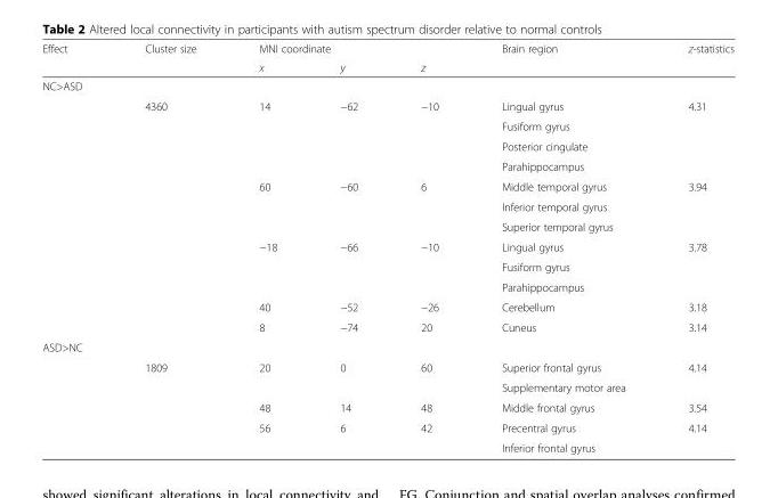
<table><thead><tr><td rowspan="2">Effect</td><td rowspan="2">Cluster size</td><td colspan="3">MNI coordinate</td><td rowspan="2">Brain region</td><td rowspan="2">z-statistics</td></tr><tr><td>x</td><td>y</td><td>z</td></tr></thead><tbody><tr><td colspan="7">NC&gt;ASD</td></tr><tr><td></td><td>4360</td><td>14</td><td>−62</td><td>−10</td><td>Lingual gyrus</td><td>4.31</td></tr><tr><td></td><td></td><td></td><td></td><td></td><td>Fusiform gyrus</td><td></td></tr><tr><td></td><td></td><td></td><td></td><td></td><td>Posterior cingulate</td><td></td></tr><tr><td></td><td></td><td></td><td></td><td></td><td>Parahippocampus</td><td></td></tr><tr><td></td><td></td><td>60</td><td>−60</td><td>6</td><td>Middle temporal gyrus</td><td>3.94</td></tr><tr><td></td><td></td><td></td><td></td><td></td><td>Inferior temporal gyrus</td><td></td></tr><tr><td></td><td></td><td></td><td></td><td></td><td>Superior temporal gyrus</td><td></td></tr><tr><td></td><td></td><td>−18</td><td>−66</td><td>−10</td><td>Lingual gyrus</td><td>3.78</td></tr><tr><td></td><td></td><td></td><td></td><td></td><td>Fusiform gyrus</td><td></td></tr><tr><td></td><td></td><td></td><td></td><td></td><td>Parahippocampus</td><td></td></tr><tr><td></td><td></td><td>40</td><td>−52</td><td>−26</td><td>Cerebellum</td><td>3.18</td></tr><tr><td></td><td></td><td>8</td><td>−74</td><td>20</td><td>Cuneus</td><td>3.14</td></tr><tr><td colspan="7">ASD&gt;NC</td></tr><tr><td></td><td>1809</td><td>20</td><td>0</td><td>60</td><td>Superior frontal gyrus</td><td>4.14</td></tr><tr><td></td><td></td><td></td><td></td><td></td><td>Supplementary motor area</td><td></td></tr><tr><td></td><td></td><td>48</td><td>14</td><td>48</td><td>Middle frontal gyrus</td><td>3.54</td></tr><tr><td></td><td></td><td>56</td><td>6</td><td>42</td><td>Precentral gyrus</td><td>4.14</td></tr><tr><td></td><td></td><td></td><td></td><td></td><td>Inferior frontal gyrus</td><td></td></tr></tbody></table>